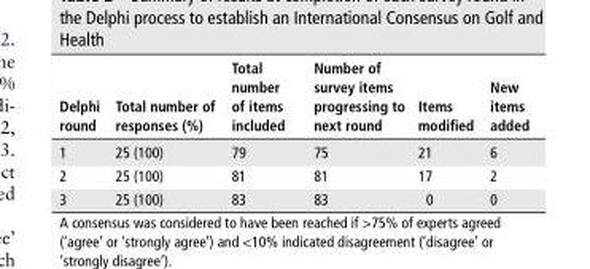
<table><thead><tr><td>delphi round</td><td>Total number of responses (%)</td><td>Total number of items included</td><td>number of survey items progressing to next round</td><td>Items modified</td><td>new items added</td></tr></thead><tbody><tr><td>1</td><td>25 (100)</td><td>79</td><td>75</td><td>21</td><td>6</td></tr><tr><td>2</td><td>25 (100)</td><td>81</td><td>81</td><td>17</td><td>2</td></tr><tr><td>3</td><td>25 (100)</td><td>83</td><td>83</td><td>0</td><td>0</td></tr></tbody></table>